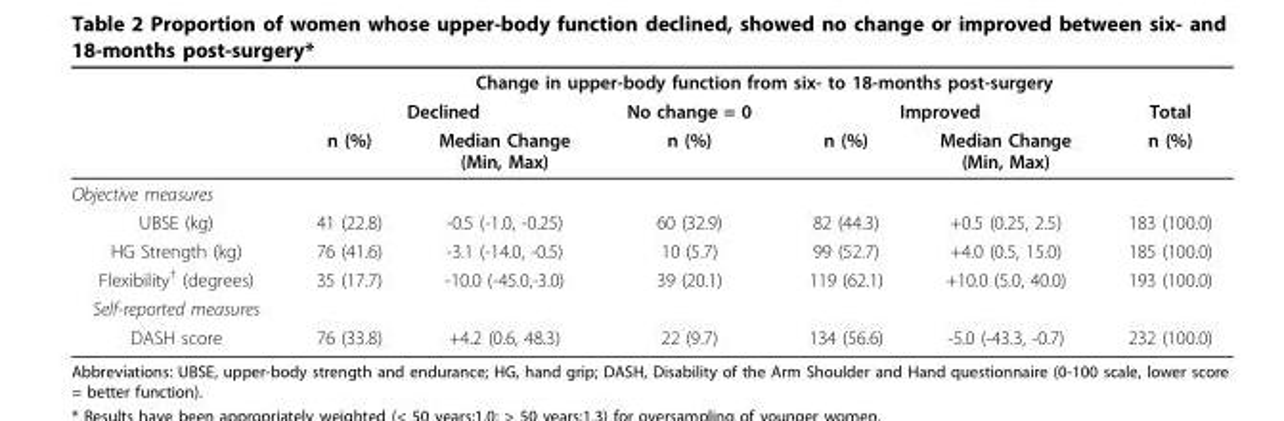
<table><thead><tr><td rowspan="3"></td><td colspan="6">Change in upper-body function from six- to 18-months post-surgery</td></tr><tr><td colspan="2">Declined</td><td rowspan="2">No change = 0 n (%)</td><td colspan="2">Improved</td><td rowspan="2">Total n (%)</td></tr><tr><td>n (%)</td><td>Median Change (Min, Max)</td><td>n (%)</td><td>Median Change (Min, Max)</td></tr></thead><tbody><tr><td colspan="7">Objective measures</td></tr><tr><td>UBSE (kg)</td><td>41 (22.8)</td><td>-0.5 (-1.0, -0.25)</td><td>60 (32.9)</td><td>82 (44.3)</td><td>+0.5 (0.25, 2.5)</td><td>183 (100.0)</td></tr><tr><td>HG Strength (kg)</td><td>76 (41.6)</td><td>-3.1 (-14.0, -0.5)</td><td>10 (5.7)</td><td>99 (52.7)</td><td>+4.0 (0.5, 15.0)</td><td>185 (100.0)</td></tr><tr><td>Flexibility<sup>†</sup> (degrees)</td><td>35 (17.7)</td><td>-10.0 (-45.0,-3.0)</td><td>39 (20.1)</td><td>119 (62.1)</td><td>+10.0 (5.0, 40.0)</td><td>193 (100.0)</td></tr><tr><td colspan="7">Self-reported measures</td></tr><tr><td>DASH score</td><td>76 (33.8)</td><td>+4.2 (0.6, 48.3)</td><td>22 (9.7)</td><td>134 (56.6)</td><td>-5.0 (-43.3, -0.7)</td><td>232 (100.0)</td></tr></tbody></table>